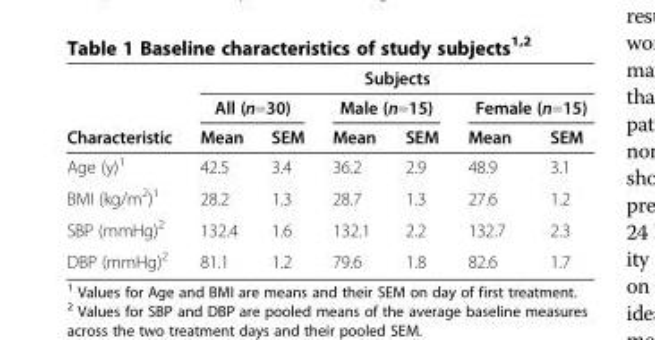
<table><thead><tr><td rowspan="3">Characteristic</td><td colspan="6">Subjects</td></tr><tr><td colspan="2">All (n=30)</td><td colspan="2">Male (n=15)</td><td colspan="2">Female (n=15)</td></tr><tr><td>Mean</td><td>SEM</td><td>Mean</td><td>SEM</td><td>Mean</td><td>SEM</td></tr></thead><tbody><tr><td>Age (y)<sup>1</sup></td><td>42.5</td><td>3.4</td><td>36.2</td><td>2.9</td><td>48.9</td><td>3.1</td></tr><tr><td>BMI (kg/m<sup>2</sup>)<sup>1</sup></td><td>28.2</td><td>1.3</td><td>28.7</td><td>1.3</td><td>27.6</td><td>1.2</td></tr><tr><td>SBP (mmHg)<sup>2</sup></td><td>132.4</td><td>1.6</td><td>132.1</td><td>2.2</td><td>132.7</td><td>2.3</td></tr><tr><td>DBP (mmHg)<sup>2</sup></td><td>81.1</td><td>1.2</td><td>79.6</td><td>1.8</td><td>82.6</td><td>1.7</td></tr></tbody></table>